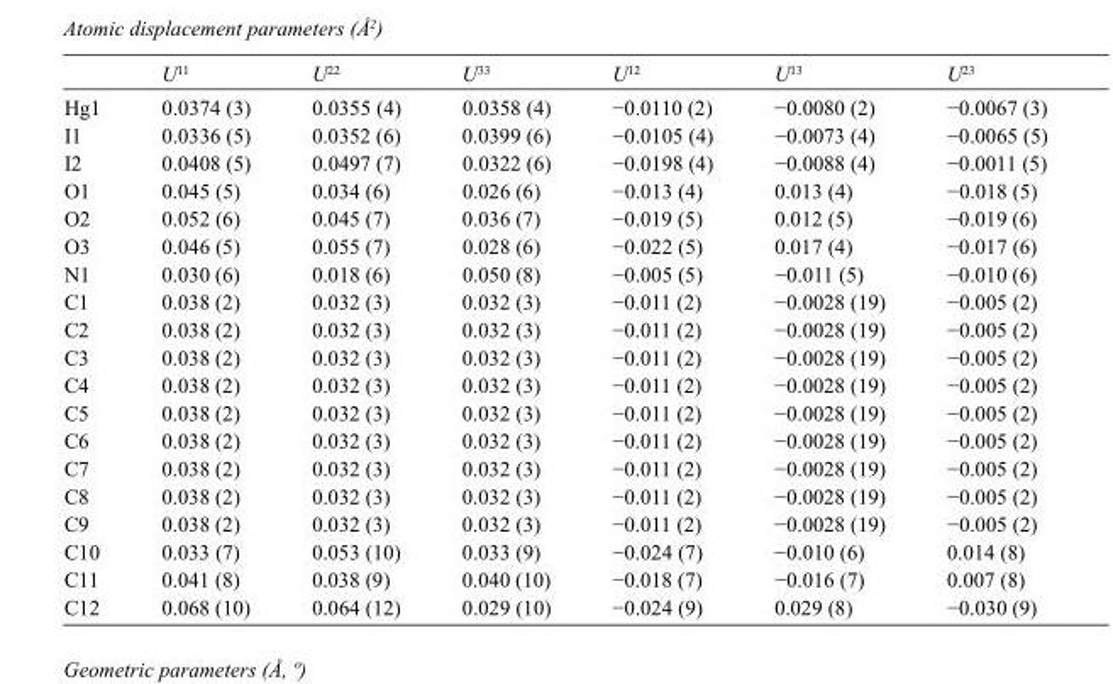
<table><thead><tr><td></td><td>U<sup>11</sup></td><td>U<sup>22</sup></td><td>U<sup>33</sup></td><td>U<sup>12</sup></td><td>U<sup>13</sup></td><td>U<sup>23</sup></td></tr></thead><tbody><tr><td>Hg1</td><td>0.0374 (3)</td><td>0.0355 (4)</td><td>0.0358 (4)</td><td>−0.0110 (2)</td><td>−0.0080 (2)</td><td>−0.0067 (3)</td></tr><tr><td>I1</td><td>0.0336 (5)</td><td>0.0352 (6)</td><td>0.0399 (6)</td><td>−0.0105 (4)</td><td>−0.0073 (4)</td><td>−0.0065 (5)</td></tr><tr><td>I2</td><td>0.0408 (5)</td><td>0.0497 (7)</td><td>0.0322 (6)</td><td>−0.0198 (4)</td><td>−0.0088 (4)</td><td>−0.0011 (5)</td></tr><tr><td>O1</td><td>0.045 (5)</td><td>0.034 (6)</td><td>0.026 (6)</td><td>−0.013 (4)</td><td>0.013 (4)</td><td>−0.018 (5)</td></tr><tr><td>O2</td><td>0.052 (6)</td><td>0.045 (7)</td><td>0.036 (7)</td><td>−0.019 (5)</td><td>0.012 (5)</td><td>−0.019 (6)</td></tr><tr><td>O3</td><td>0.046 (5)</td><td>0.055 (7)</td><td>0.028 (6)</td><td>−0.022 (5)</td><td>0.017 (4)</td><td>−0.017 (6)</td></tr><tr><td>N1</td><td>0.030 (6)</td><td>0.018 (6)</td><td>0.050 (8)</td><td>−0.005 (5)</td><td>−0.011 (5)</td><td>−0.010 (6)</td></tr><tr><td>C1</td><td>0.038 (2)</td><td>0.032 (3)</td><td>0.032 (3)</td><td>−0.011 (2)</td><td>−0.0028 (19)</td><td>−0.005 (2)</td></tr><tr><td>C2</td><td>0.038 (2)</td><td>0.032 (3)</td><td>0.032 (3)</td><td>−0.011 (2)</td><td>−0.0028 (19)</td><td>−0.005 (2)</td></tr><tr><td>C3</td><td>0.038 (2)</td><td>0.032 (3)</td><td>0.032 (3)</td><td>−0.011 (2)</td><td>−0.0028 (19)</td><td>−0.005 (2)</td></tr><tr><td>C4</td><td>0.038 (2)</td><td>0.032 (3)</td><td>0.032 (3)</td><td>−0.011 (2)</td><td>−0.0028 (19)</td><td>−0.005 (2)</td></tr><tr><td>C5</td><td>0.038 (2)</td><td>0.032 (3)</td><td>0.032 (3)</td><td>−0.011 (2)</td><td>−0.0028 (19)</td><td>−0.005 (2)</td></tr><tr><td>C6</td><td>0.038 (2)</td><td>0.032 (3)</td><td>0.032 (3)</td><td>−0.011 (2)</td><td>−0.0028 (19)</td><td>−0.005 (2)</td></tr><tr><td>C7</td><td>0.038 (2)</td><td>0.032 (3)</td><td>0.032 (3)</td><td>−0.011 (2)</td><td>−0.0028 (19)</td><td>−0.005 (2)</td></tr><tr><td>C8</td><td>0.038 (2)</td><td>0.032 (3)</td><td>0.032 (3)</td><td>−0.011 (2)</td><td>−0.0028 (19)</td><td>−0.005 (2)</td></tr><tr><td>C9</td><td>0.038 (2)</td><td>0.032 (3)</td><td>0.032 (3)</td><td>−0.011 (2)</td><td>−0.0028 (19)</td><td>−0.005 (2)</td></tr><tr><td>C10</td><td>0.033 (7)</td><td>0.053 (10)</td><td>0.033 (9)</td><td>−0.024 (7)</td><td>−0.010 (6)</td><td>0.014 (8)</td></tr><tr><td>C11</td><td>0.041 (8)</td><td>0.038 (9)</td><td>0.040 (10)</td><td>−0.018 (7)</td><td>−0.016 (7)</td><td>0.007 (8)</td></tr><tr><td>C12</td><td>0.068 (10)</td><td>0.064 (12)</td><td>0.029 (10)</td><td>−0.024 (9)</td><td>0.029 (8)</td><td>−0.030 (9)</td></tr></tbody></table>